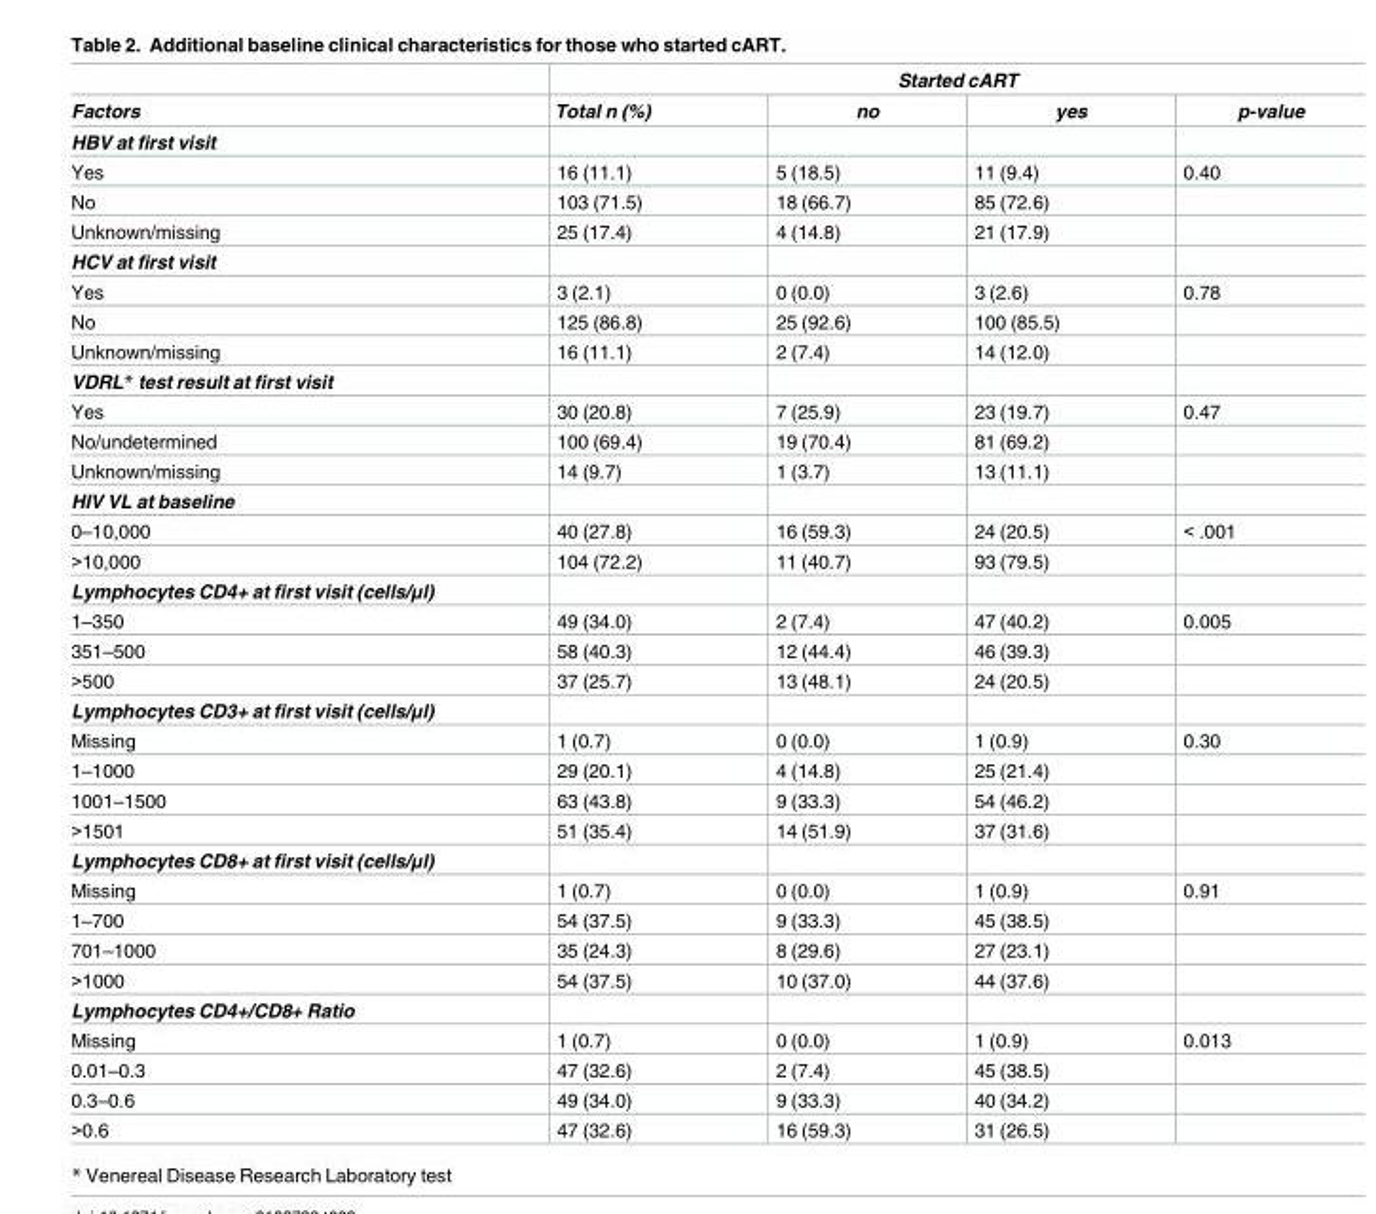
<table><thead><tr><td rowspan="2">Factors</td><td colspan="4">Started cART</td></tr><tr><td>Total n (%)</td><td>no</td><td>yes</td><td>p-value</td></tr></thead><tbody><tr><td colspan="5">HBV at first visit</td></tr><tr><td>Yes</td><td>16 (11.1)</td><td>5 (18.5)</td><td>11 (9.4)</td><td>0.40</td></tr><tr><td>No</td><td>103 (71.5)</td><td>18 (66.7)</td><td>85 (72.6)</td><td></td></tr><tr><td>Unknown/missing</td><td>25 (17.4)</td><td>4 (14.8)</td><td>21 (17.9)</td><td></td></tr><tr><td colspan="5">HCV at first visit</td></tr><tr><td>Yes</td><td>3 (2.1)</td><td>0 (0.0)</td><td>3 (2.6)</td><td>0.78</td></tr><tr><td>No</td><td>125 (86.8)</td><td>25 (92.6)</td><td>100 (85.5)</td><td></td></tr><tr><td>Unknown/missing</td><td>16 (11.1)</td><td>2 (7.4)</td><td>14 (12.0)</td><td></td></tr><tr><td colspan="5">VDRL* test result at first visit</td></tr><tr><td>Yes</td><td>30 (20.8)</td><td>7 (25.9)</td><td>23 (19.7)</td><td>0.47</td></tr><tr><td>No/undetermined</td><td>100 (69.4)</td><td>19 (70.4)</td><td>81 (69.2)</td><td></td></tr><tr><td>Unknown/missing</td><td>14 (9.7)</td><td>1 (3.7)</td><td>13 (11.1)</td><td></td></tr><tr><td colspan="5">HIV VL at baseline</td></tr><tr><td>0–10,000</td><td>40 (27.8)</td><td>16 (59.3)</td><td>24 (20.5)</td><td>&lt; .001</td></tr><tr><td>&gt;10,000</td><td>104 (72.2)</td><td>11 (40.7)</td><td>93 (79.5)</td><td></td></tr><tr><td colspan="5">Lymphocytes CD4+ at first visit (cells/μl)</td></tr><tr><td>1–350</td><td>49 (34.0)</td><td>2 (7.4)</td><td>47 (40.2)</td><td>0.005</td></tr><tr><td>351–500</td><td>58 (40.3)</td><td>12 (44.4)</td><td>46 (39.3)</td><td></td></tr><tr><td>&gt;500</td><td>37 (25.7)</td><td>13 (48.1)</td><td>24 (20.5)</td><td></td></tr><tr><td colspan="5">Lymphocytes CD3+ at first visit (cells/μl)</td></tr><tr><td>Missing</td><td>1 (0.7)</td><td>0 (0.0)</td><td>1 (0.9)</td><td>0.30</td></tr><tr><td>1–1000</td><td>29 (20.1)</td><td>4 (14.8)</td><td>25 (21.4)</td><td></td></tr><tr><td>1001–1500</td><td>63 (43.8)</td><td>9 (33.3)</td><td>54 (46.2)</td><td></td></tr><tr><td>&gt;1501</td><td>51 (35.4)</td><td>14 (51.9)</td><td>37 (31.6)</td><td></td></tr><tr><td colspan="5">Lymphocytes CD8+ at first visit (cells/μl)</td></tr><tr><td>Missing</td><td>1 (0.7)</td><td>0 (0.0)</td><td>1 (0.9)</td><td>0.91</td></tr><tr><td>1–700</td><td>54 (37.5)</td><td>9 (33.3)</td><td>45 (38.5)</td><td></td></tr><tr><td>701–1000</td><td>35 (24.3)</td><td>8 (29.6)</td><td>27 (23.1)</td><td></td></tr><tr><td>&gt;1000</td><td>54 (37.5)</td><td>10 (37.0)</td><td>44 (37.6)</td><td></td></tr><tr><td colspan="5">Lymphocytes CD4+/CD8+ Ratio</td></tr><tr><td>Missing</td><td>1 (0.7)</td><td>0 (0.0)</td><td>1 (0.9)</td><td>0.013</td></tr><tr><td>0.01–0.3</td><td>47 (32.6)</td><td>2 (7.4)</td><td>45 (38.5)</td><td></td></tr><tr><td>0.3–0.6</td><td>49 (34.0)</td><td>9 (33.3)</td><td>40 (34.2)</td><td></td></tr><tr><td>&gt;0.6</td><td>47 (32.6)</td><td>16 (59.3)</td><td>31 (26.5)</td><td></td></tr></tbody></table>